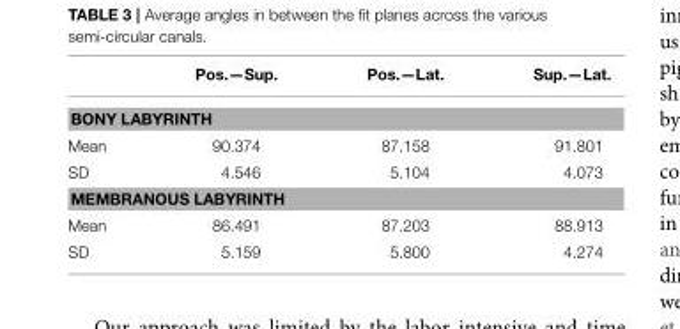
<table><thead><tr><td></td><td>Pos.—Sup.</td><td>Pos.—Lat.</td><td>Sup.—Lat.</td></tr></thead><tbody><tr><td colspan="4">BONY LABYRINTH</td></tr><tr><td>Mean</td><td>90.374</td><td>87.158</td><td>91.801</td></tr><tr><td>SD</td><td>4.546</td><td>5.104</td><td>4.073</td></tr><tr><td colspan="4">MEMBRANOUS LABYRINTH</td></tr><tr><td>Mean</td><td>86.491</td><td>87.203</td><td>88.913</td></tr><tr><td>SD</td><td>5.159</td><td>5.800</td><td>4.274</td></tr></tbody></table>